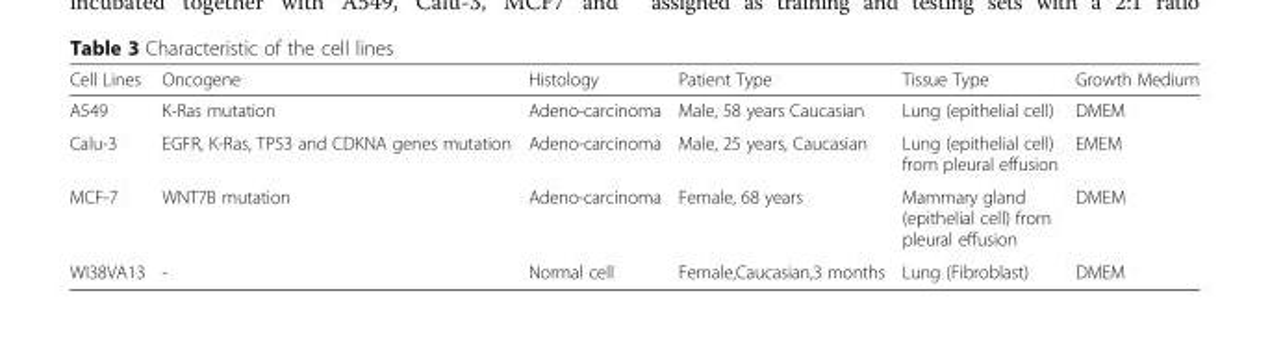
<table><thead><tr><td>Cell Lines</td><td>Oncogene</td><td>Histology</td><td>Patient Type</td><td>Tissue Type</td><td>Growth Medium</td></tr></thead><tbody><tr><td>A549</td><td>K-Ras mutation</td><td>Adeno-carcinoma</td><td>Male, 58 years Caucasian</td><td>Lung (epithelial cell)</td><td>DMEM</td></tr><tr><td>Calu-3</td><td>EGFR, K-Ras, TP53 and CDKNA genes mutation</td><td>Adeno-carcinoma</td><td>Male, 25 years, Caucasian</td><td>Lung (epithelial cell) from pleural effusion</td><td>EMEM</td></tr><tr><td>MCF-7</td><td>WNT7B mutation</td><td>Adeno-carcinoma</td><td>Female, 68 years</td><td>Mammary gland (epithelial cell) from pleural effusion</td><td>DMEM</td></tr><tr><td>WI38VA13</td><td>-</td><td>Normal cell</td><td>Female,Caucasian,3 months</td><td>Lung (Fibroblast)</td><td>DMEM</td></tr></tbody></table>